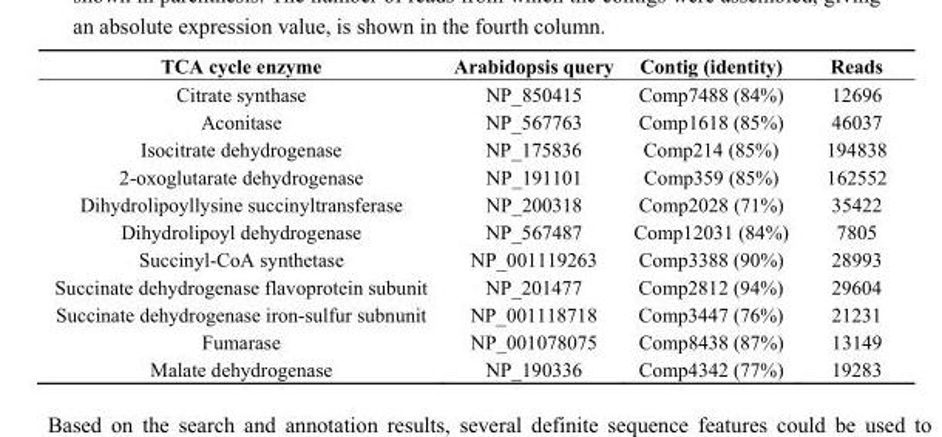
<table><thead><tr><td>TCA cycle enzyme</td><td>Arabidopsis query</td><td>Contig (identity)</td><td>Reads</td></tr></thead><tbody><tr><td>Citrate synthase</td><td>NP_850415</td><td>Comp7488 (84%)</td><td>12696</td></tr><tr><td>Aconitase</td><td>NP_567763</td><td>Comp1618 (85%)</td><td>46037</td></tr><tr><td>Isocitrate dehydrogenase</td><td>NP_175836</td><td>Comp214 (85%)</td><td>194838</td></tr><tr><td>2-oxoglutarate dehydrogenase</td><td>NP_191101</td><td>Comp359 (85%)</td><td>162552</td></tr><tr><td>Dihydrolipoyllysine succinyltransferase</td><td>NP_200318</td><td>Comp2028 (71%)</td><td>35422</td></tr><tr><td>Dihydrolipoyl dehydrogenase</td><td>NP_567487</td><td>Comp12031 (84%)</td><td>7805</td></tr><tr><td>Succinyl-CoA synthetase</td><td>NP_001119263</td><td>Comp3388 (90%)</td><td>28993</td></tr><tr><td>Succinate dehydrogenase flavoprotein subunit</td><td>NP_201477</td><td>Comp2812 (94%)</td><td>29604</td></tr><tr><td>Succinate dehydrogenase iron-sulfur subnunit</td><td>NP_001118718</td><td>Comp3447 (76%)</td><td>21231</td></tr><tr><td>Fumarase</td><td>NP_001078075</td><td>Comp8438 (87%)</td><td>13149</td></tr><tr><td>Malate dehydrogenase</td><td>NP_190336</td><td>Comp4342 (77%)</td><td>19283</td></tr></tbody></table>